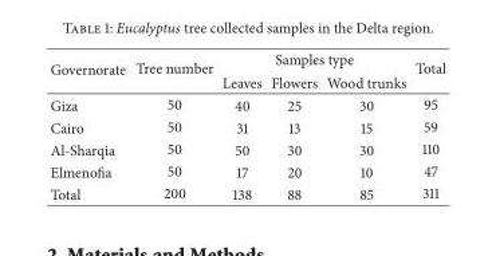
<table><thead><tr><td rowspan="2">Governorate</td><td rowspan="2">Tree number</td><td colspan="3">Samples type</td><td rowspan="2">Total</td></tr><tr><td>Leaves</td><td>Flowers</td><td>Wood trunks</td></tr></thead><tbody><tr><td>Giza</td><td>50</td><td>40</td><td>25</td><td>30</td><td>95</td></tr><tr><td>Cairo</td><td>50</td><td>31</td><td>13</td><td>15</td><td>59</td></tr><tr><td>Al-Sharqia</td><td>50</td><td>50</td><td>30</td><td>30</td><td>110</td></tr><tr><td>Elmenofia</td><td>50</td><td>17</td><td>20</td><td>10</td><td>47</td></tr><tr><td>Total</td><td>200</td><td>138</td><td>88</td><td>85</td><td>311</td></tr></tbody></table>